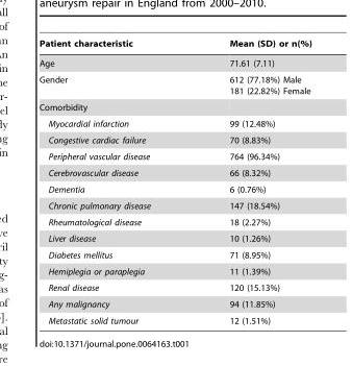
<table><thead><tr><td>Patient characteristic</td><td>Mean (SD) or n(%)</td></tr></thead><tbody><tr><td>Age</td><td>71.61 (7.11)</td></tr><tr><td>Gender</td><td>612 (77.18%) Male 181 (22.82%) Female</td></tr><tr><td colspan="2">Comorbidity</td></tr><tr><td>Myocardial infarction</td><td>99 (12.48%)</td></tr><tr><td>Congestive cardiac failure</td><td>70 (8.83%)</td></tr><tr><td>Peripheral vascular disease</td><td>764 (96.34%)</td></tr><tr><td>Cerebrovascular disease</td><td>66 (8.32%)</td></tr><tr><td>Dementia</td><td>6 (0.76%)</td></tr><tr><td>Chronic pulmonary disease</td><td>147 (18.54%)</td></tr><tr><td>Rheumatological disease</td><td>18 (2.27%)</td></tr><tr><td>Liver disease</td><td>10 (1.26%)</td></tr><tr><td>Diabetes mellitus</td><td>71 (8.95%)</td></tr><tr><td>Hemiplegia or paraplegia</td><td>11 (1.39%)</td></tr><tr><td>Renal disease</td><td>120 (15.13%)</td></tr><tr><td>Any malignancy</td><td>94 (11.85%)</td></tr><tr><td>Metastatic solid tumour</td><td>12 (1.51%)</td></tr></tbody></table>